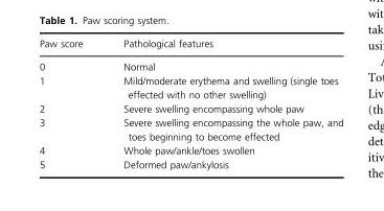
<table><thead><tr><td>Paw score</td><td>Pathological features</td></tr></thead><tbody><tr><td>0</td><td>Normal</td></tr><tr><td>1</td><td>Mild/moderate erythema and swelling (single toes effected with no other swelling)</td></tr><tr><td>2</td><td>Severe swelling encompassing whole paw</td></tr><tr><td>3</td><td>Severe swelling encompassing the whole paw, and toes beginning to become effected</td></tr><tr><td>4</td><td>Whole paw/ankle/toes swollen</td></tr><tr><td>5</td><td>Deformed paw/ankylosis</td></tr></tbody></table>